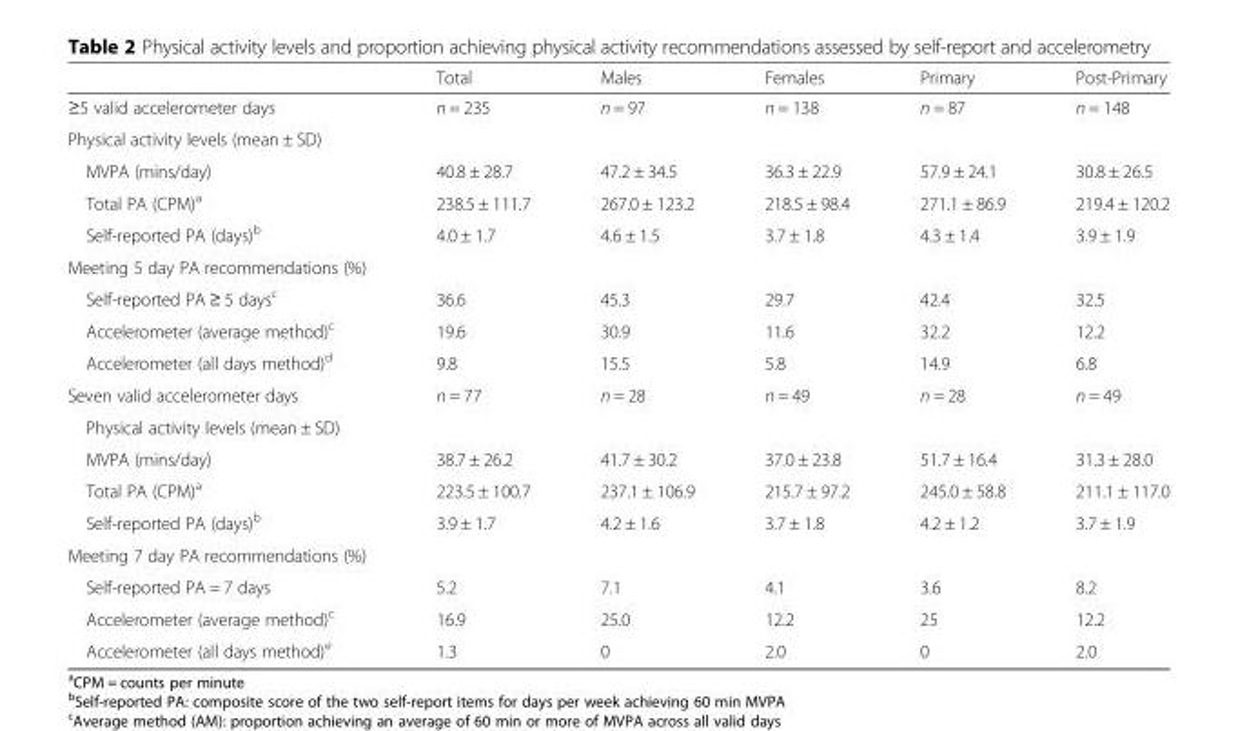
<table><thead><tr><td></td><td>Total</td><td>Males</td><td>Females</td><td>Primary</td><td>Post-Primary</td></tr></thead><tbody><tr><td>≥5 valid accelerometer days</td><td>n = 235</td><td>n = 97</td><td>n = 138</td><td>n = 87</td><td>n = 148</td></tr><tr><td colspan="6">Physical activity levels (mean ± SD)</td></tr><tr><td>MVPA (mins/day)</td><td>40.8 ± 28.7</td><td>47.2 ± 34.5</td><td>36.3 ± 22.9</td><td>57.9 ± 24.1</td><td>30.8 ± 26.5</td></tr><tr><td>Total PA (CPM)<sup>a</sup></td><td>238.5 ± 111.7</td><td>267.0 ± 123.2</td><td>218.5 ± 98.4</td><td>271.1 ± 86.9</td><td>219.4 ± 120.2</td></tr><tr><td>Self-reported PA (days)<sup>b</sup></td><td>4.0 ± 1.7</td><td>4.6 ± 1.5</td><td>3.7 ± 1.8</td><td>4.3 ± 1.4</td><td>3.9 ± 1.9</td></tr><tr><td colspan="6">Meeting 5 day PA recommendations (%)</td></tr><tr><td>Self-reported PA ≥ 5 days<sup>c</sup></td><td>36.6</td><td>45.3</td><td>29.7</td><td>42.4</td><td>32.5</td></tr><tr><td>Accelerometer (average method)<sup>c</sup></td><td>19.6</td><td>30.9</td><td>11.6</td><td>32.2</td><td>12.2</td></tr><tr><td>Accelerometer (all days method)<sup>d</sup></td><td>9.8</td><td>15.5</td><td>5.8</td><td>14.9</td><td>6.8</td></tr><tr><td>Seven valid accelerometer days</td><td>n = 77</td><td>n = 28</td><td>n = 49</td><td>n = 28</td><td>n = 49</td></tr><tr><td colspan="6">Physical activity levels (mean ± SD)</td></tr><tr><td>MVPA (mins/day)</td><td>38.7 ± 26.2</td><td>41.7 ± 30.2</td><td>37.0 ± 23.8</td><td>51.7 ± 16.4</td><td>31.3 ± 28.0</td></tr><tr><td>Total PA (CPM)<sup>a</sup></td><td>223.5 ± 100.7</td><td>237.1 ± 106.9</td><td>215.7 ± 97.2</td><td>245.0 ± 58.8</td><td>211.1 ± 117.0</td></tr><tr><td>Self-reported PA (days)<sup>b</sup></td><td>3.9 ± 1.7</td><td>4.2 ± 1.6</td><td>3.7 ± 1.8</td><td>4.2 ± 1.2</td><td>3.7 ± 1.9</td></tr><tr><td colspan="6">Meeting 7 day PA recommendations (%)</td></tr><tr><td>Self-reported PA = 7 days</td><td>5.2</td><td>7.1</td><td>4.1</td><td>3.6</td><td>8.2</td></tr><tr><td>Accelerometer (average method)<sup>c</sup></td><td>16.9</td><td>25.0</td><td>12.2</td><td>25</td><td>12.2</td></tr><tr><td>Accelerometer (all days method)<sup>e</sup></td><td>1.3</td><td>0</td><td>2.0</td><td>0</td><td>2.0</td></tr></tbody></table>